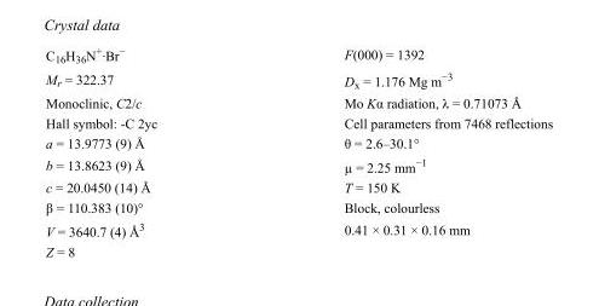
<table><tbody><tr><td>C<sub>16</sub>H<sub>36</sub>N<sup>+</sup>·Br<sup>−</sup></td><td>F(000) = 1392</td></tr><tr><td>M<sub>r</sub> = 322.37</td><td>D<sub>x</sub> = 1.176 Mg m<sup>−3</sup></td></tr><tr><td>Monoclinic, C2/c</td><td>Mo Kα radiation, λ = 0.71073 Å</td></tr><tr><td>Hall symbol: -C 2yc</td><td>Cell parameters from 7468 reflections</td></tr><tr><td>a = 13.9773 (9) Å</td><td>θ = 2.6–30.1°</td></tr><tr><td>b = 13.8623 (9) Å</td><td>µ = 2.25 mm<sup>−1</sup></td></tr><tr><td>c = 20.0450 (14) Å</td><td>T = 150 K</td></tr><tr><td>β = 110.383 (10)°</td><td>Block, colourless</td></tr><tr><td>V = 3640.7 (4) Å<sup>3</sup></td><td>0.41 × 0.31 × 0.16 mm</td></tr><tr><td>Z = 8</td><td></td></tr></tbody></table>